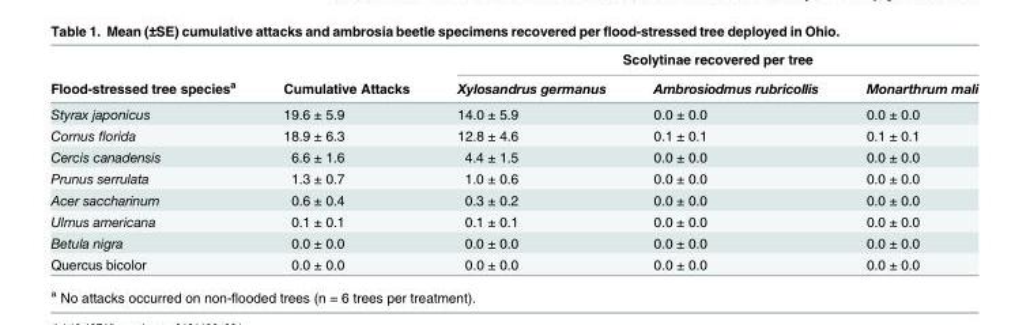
<table><thead><tr><td rowspan="2">Flood-stressed tree species<sup>a</sup></td><td rowspan="2">Cumulative Attacks</td><td colspan="3">Scolytinae recovered per tree</td></tr><tr><td>Xylosandrus germanus</td><td>Ambrosiodmus rubricollis</td><td>Monarthrum mali</td></tr></thead><tbody><tr><td>Styrax japonicus</td><td>19.6 ± 5.9</td><td>14.0 ± 5.9</td><td>0.0 ± 0.0</td><td>0.0 ± 0.0</td></tr><tr><td>Cornus florida</td><td>18.9 ± 6.3</td><td>12.8 ± 4.6</td><td>0.1 ± 0.1</td><td>0.1 ± 0.1</td></tr><tr><td>Cercis canadensis</td><td>6.6 ± 1.6</td><td>4.4 ± 1.5</td><td>0.0 ± 0.0</td><td>0.0 ± 0.0</td></tr><tr><td>Prunus serrulata</td><td>1.3 ± 0.7</td><td>1.0 ± 0.6</td><td>0.0 ± 0.0</td><td>0.0 ± 0.0</td></tr><tr><td>Acer saccharinum</td><td>0.6 ± 0.4</td><td>0.3 ± 0.2</td><td>0.0 ± 0.0</td><td>0.0 ± 0.0</td></tr><tr><td>Ulmus americana</td><td>0.1 ± 0.1</td><td>0.1 ± 0.1</td><td>0.0 ± 0.0</td><td>0.0 ± 0.0</td></tr><tr><td>Betula nigra</td><td>0.0 ± 0.0</td><td>0.0 ± 0.0</td><td>0.0 ± 0.0</td><td>0.0 ± 0.0</td></tr><tr><td>Quercus bicolor</td><td>0.0 ± 0.0</td><td>0.0 ± 0.0</td><td>0.0 ± 0.0</td><td>0.0 ± 0.0</td></tr></tbody></table>